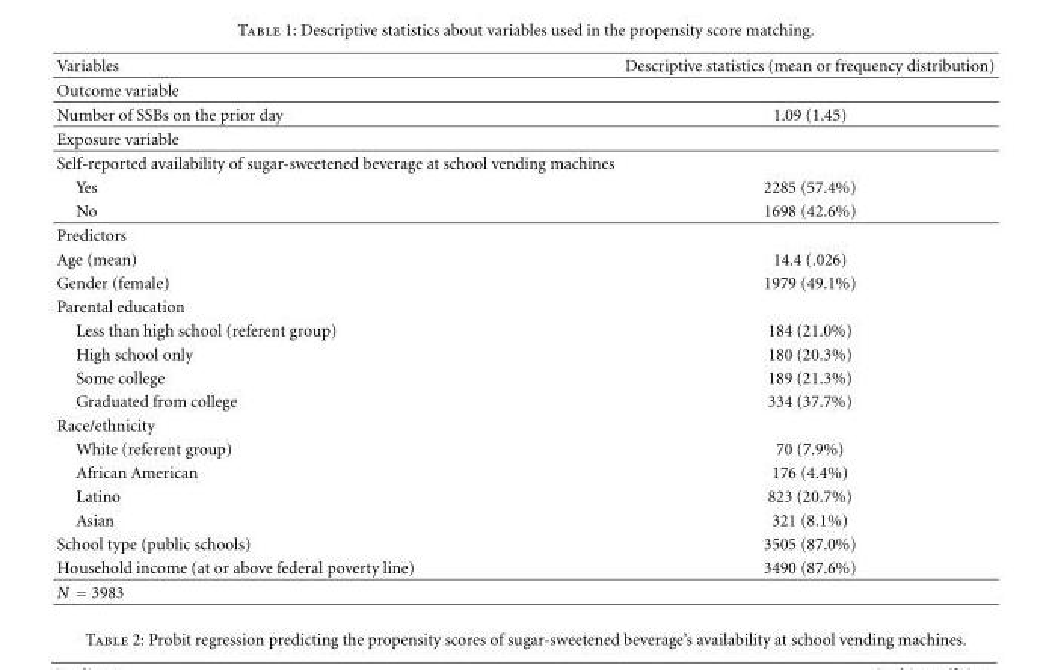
<table><thead><tr><td>Variables</td><td>Descriptive statistics (mean or frequency distribution)</td></tr></thead><tbody><tr><td colspan="2">Outcome variable</td></tr><tr><td>Number of SSBs on the prior day</td><td>1.09 (1.45)</td></tr><tr><td colspan="2">Exposure variable</td></tr><tr><td colspan="2">Self-reported availability of sugar-sweetened beverage at school vending machines</td></tr><tr><td>Yes</td><td>2285 (57.4%)</td></tr><tr><td>No</td><td>1698 (42.6%)</td></tr><tr><td colspan="2">Predictors</td></tr><tr><td>Age (mean)</td><td>14.4 (.026)</td></tr><tr><td>Gender (female)</td><td>1979 (49.1%)</td></tr><tr><td colspan="2">Parental education</td></tr><tr><td>Less than high school (referent group)</td><td>184 (21.0%)</td></tr><tr><td>High school only</td><td>180 (20.3%)</td></tr><tr><td>Some college</td><td>189 (21.3%)</td></tr><tr><td>Graduated from college</td><td>334 (37.7%)</td></tr><tr><td colspan="2">Race/ethnicity</td></tr><tr><td>White (referent group)</td><td>70 (7.9%)</td></tr><tr><td>African American</td><td>176 (4.4%)</td></tr><tr><td>Latino</td><td>823 (20.7%)</td></tr><tr><td>Asian</td><td>321 (8.1%)</td></tr><tr><td>School type (public schools)</td><td>3505 (87.0%)</td></tr><tr><td>Household income (at or above federal poverty line)</td><td>3490 (87.6%)</td></tr><tr><td>N = 3983</td><td></td></tr></tbody></table>